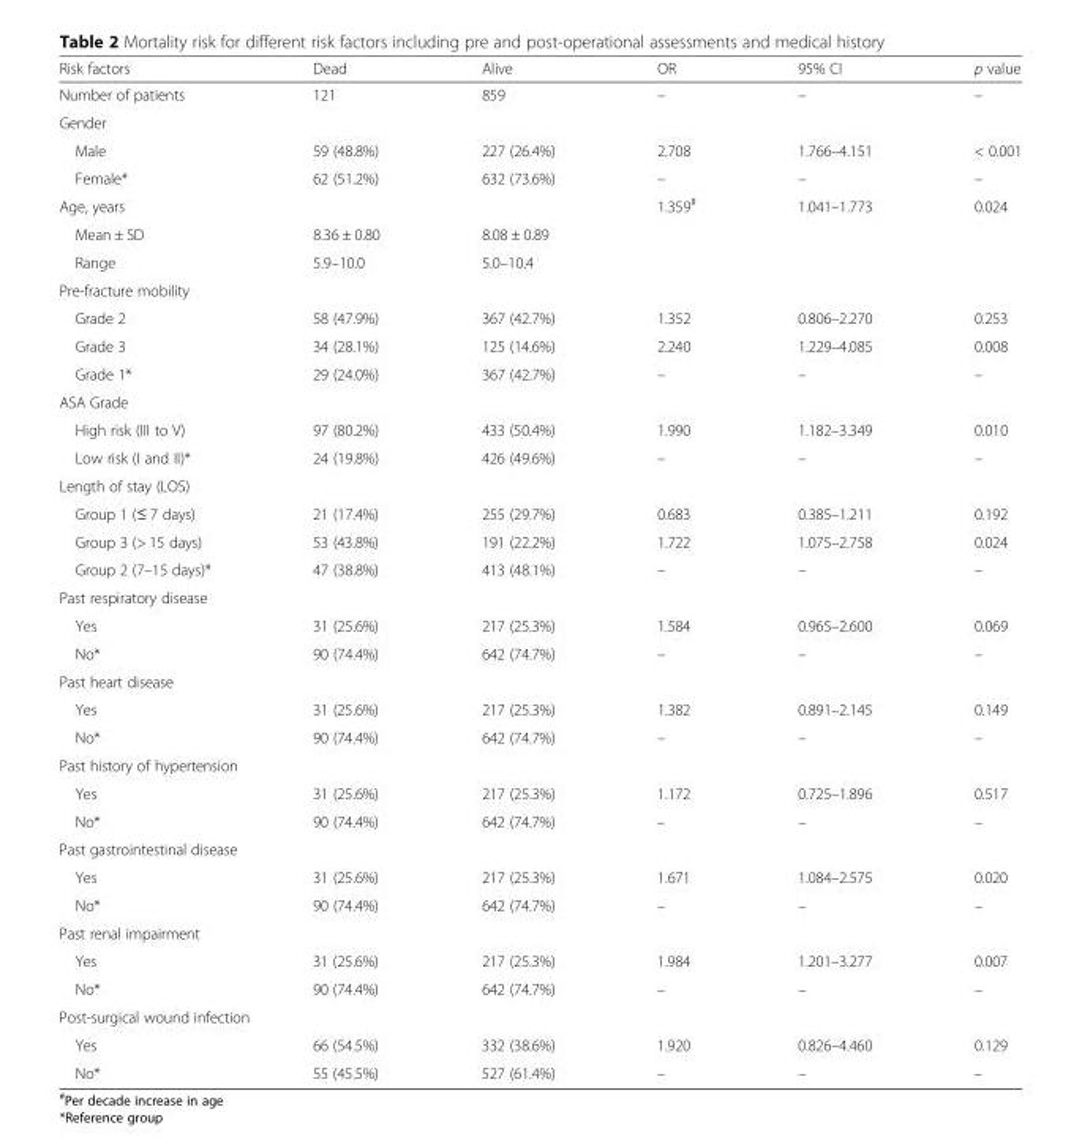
<table><thead><tr><td>Risk factors</td><td>Dead</td><td>Alive</td><td>OR</td><td>95% CI</td><td>p value</td></tr></thead><tbody><tr><td>Number of patients</td><td>121</td><td>859</td><td>–</td><td>–</td><td>–</td></tr><tr><td colspan="6">Gender</td></tr><tr><td>Male</td><td>59 (48.8%)</td><td>227 (26.4%)</td><td>2.708</td><td>1.766–4.151</td><td>&lt; 0.001</td></tr><tr><td>Female*</td><td>62 (51.2%)</td><td>632 (73.6%)</td><td>–</td><td>–</td><td>–</td></tr><tr><td>Age, years</td><td></td><td></td><td>1.359<sup>#</sup></td><td>1.041–1.773</td><td>0.024</td></tr><tr><td>Mean ± SD</td><td>8.36 ± 0.80</td><td>8.08 ± 0.89</td><td></td><td></td><td></td></tr><tr><td>Range</td><td>5.9–10.0</td><td>5.0–10.4</td><td></td><td></td><td></td></tr><tr><td colspan="6">Pre-fracture mobility</td></tr><tr><td>Grade 2</td><td>58 (47.9%)</td><td>367 (42.7%)</td><td>1.352</td><td>0.806–2.270</td><td>0.253</td></tr><tr><td>Grade 3</td><td>34 (28.1%)</td><td>125 (14.6%)</td><td>2.240</td><td>1.229–4.085</td><td>0.008</td></tr><tr><td>Grade 1*</td><td>29 (24.0%)</td><td>367 (42.7%)</td><td>–</td><td>–</td><td>–</td></tr><tr><td colspan="6">ASA Grade</td></tr><tr><td>High risk (III to V)</td><td>97 (80.2%)</td><td>433 (50.4%)</td><td>1.990</td><td>1.182–3.349</td><td>0.010</td></tr><tr><td>Low risk (I and II)*</td><td>24 (19.8%)</td><td>426 (49.6%)</td><td>–</td><td>–</td><td>–</td></tr><tr><td colspan="6">Length of stay (LOS)</td></tr><tr><td>Group 1 (≤ 7 days)</td><td>21 (17.4%)</td><td>255 (29.7%)</td><td>0.683</td><td>0.385–1.211</td><td>0.192</td></tr><tr><td>Group 3 (&gt; 15 days)</td><td>53 (43.8%)</td><td>191 (22.2%)</td><td>1.722</td><td>1.075–2.758</td><td>0.024</td></tr><tr><td>Group 2 (7–15 days)*</td><td>47 (38.8%)</td><td>413 (48.1%)</td><td>–</td><td>–</td><td>–</td></tr><tr><td colspan="6">Past respiratory disease</td></tr><tr><td>Yes</td><td>31 (25.6%)</td><td>217 (25.3%)</td><td>1.584</td><td>0.965–2.600</td><td>0.069</td></tr><tr><td>No*</td><td>90 (74.4%)</td><td>642 (74.7%)</td><td>–</td><td>–</td><td>–</td></tr><tr><td colspan="6">Past heart disease</td></tr><tr><td>Yes</td><td>31 (25.6%)</td><td>217 (25.3%)</td><td>1.382</td><td>0.891–2.145</td><td>0.149</td></tr><tr><td>No*</td><td>90 (74.4%)</td><td>642 (74.7%)</td><td>–</td><td>–</td><td>–</td></tr><tr><td colspan="6">Past history of hypertension</td></tr><tr><td>Yes</td><td>31 (25.6%)</td><td>217 (25.3%)</td><td>1.172</td><td>0.725–1.896</td><td>0.517</td></tr><tr><td>No*</td><td>90 (74.4%)</td><td>642 (74.7%)</td><td>–</td><td>–</td><td>–</td></tr><tr><td colspan="6">Past gastrointestinal disease</td></tr><tr><td>Yes</td><td>31 (25.6%)</td><td>217 (25.3%)</td><td>1.671</td><td>1.084–2.575</td><td>0.020</td></tr><tr><td>No*</td><td>90 (74.4%)</td><td>642 (74.7%)</td><td>–</td><td>–</td><td>–</td></tr><tr><td colspan="6">Past renal impairment</td></tr><tr><td>Yes</td><td>31 (25.6%)</td><td>217 (25.3%)</td><td>1.984</td><td>1.201–3.277</td><td>0.007</td></tr><tr><td>No*</td><td>90 (74.4%)</td><td>642 (74.7%)</td><td>–</td><td>–</td><td>–</td></tr><tr><td colspan="6">Post-surgical wound infection</td></tr><tr><td>Yes</td><td>66 (54.5%)</td><td>332 (38.6%)</td><td>1.920</td><td>0.826–4.460</td><td>0.129</td></tr><tr><td>No*</td><td>55 (45.5%)</td><td>527 (61.4%)</td><td>–</td><td>–</td><td>–</td></tr></tbody></table>